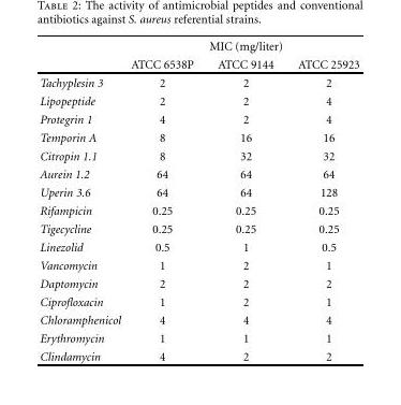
<table><thead><tr><td rowspan="2"></td><td rowspan="2">ATCC 6538P</td><td rowspan="2">MIC (mg/liter) ATCC 9144</td><td rowspan="2">ATCC 25923</td></tr><tr></tr></thead><tbody><tr><td>Tachyplesin 3</td><td>2</td><td>2</td><td>2</td></tr><tr><td>Lipopeptide</td><td>2</td><td>2</td><td>4</td></tr><tr><td>Protegrin 1</td><td>4</td><td>2</td><td>4</td></tr><tr><td>Temporin A</td><td>8</td><td>16</td><td>16</td></tr><tr><td>Citropin 1.1</td><td>8</td><td>32</td><td>32</td></tr><tr><td>Aurein 1.2</td><td>64</td><td>64</td><td>64</td></tr><tr><td>Uperin 3.6</td><td>64</td><td>64</td><td>128</td></tr><tr><td>Rifampicin</td><td>0.25</td><td>0.25</td><td>0.25</td></tr><tr><td>Tigecycline</td><td>0.25</td><td>0.25</td><td>0.25</td></tr><tr><td>Linezolid</td><td>0.5</td><td>1</td><td>0.5</td></tr><tr><td>Vancomycin</td><td>1</td><td>2</td><td>1</td></tr><tr><td>Daptomycin</td><td>2</td><td>2</td><td>2</td></tr><tr><td>Ciprofloxacin</td><td>1</td><td>2</td><td>1</td></tr><tr><td>Chloramphenicol</td><td>4</td><td>4</td><td>4</td></tr><tr><td>Erythromycin</td><td>1</td><td>1</td><td>1</td></tr><tr><td>Clindamycin</td><td>4</td><td>2</td><td>2</td></tr></tbody></table>